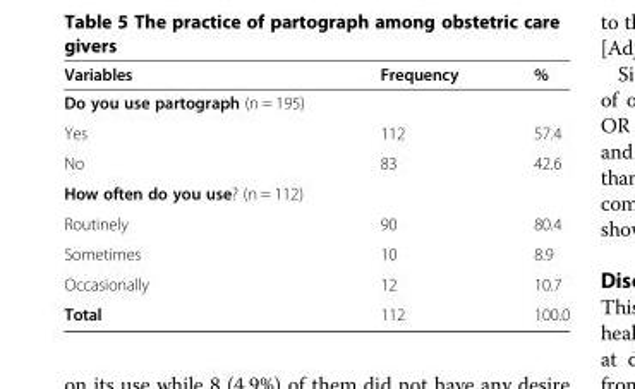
<table><thead><tr><td>Variables</td><td>Frequency</td><td>%</td></tr></thead><tbody><tr><td colspan="3">Do you use partograph (n = 195)</td></tr><tr><td>Yes</td><td>112</td><td>57.4</td></tr><tr><td>No</td><td>83</td><td>42.6</td></tr><tr><td colspan="3">How often do you use? (n = 112)</td></tr><tr><td>Routinely</td><td>90</td><td>80.4</td></tr><tr><td>Sometimes</td><td>10</td><td>8.9</td></tr><tr><td>Occasionally</td><td>12</td><td>10.7</td></tr><tr><td>Total</td><td>112</td><td>100.0</td></tr></tbody></table>